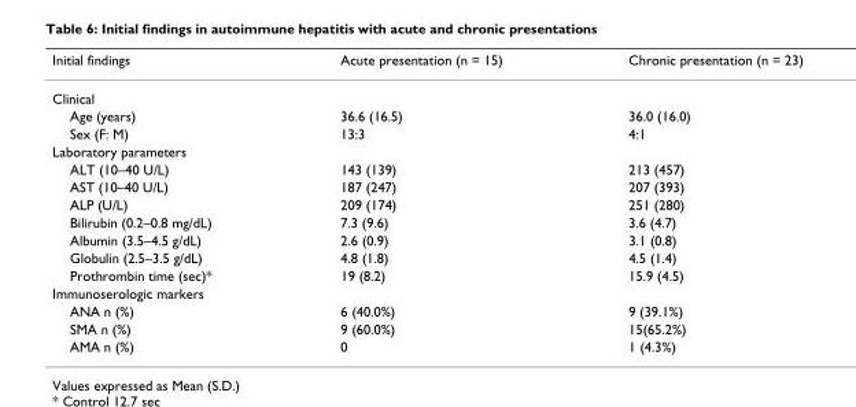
<table><thead><tr><td>Initial findings</td><td>Acute presentation (n = 15)</td><td>Chronic presentation (n = 23)</td></tr></thead><tbody><tr><td colspan="3">Clinical</td></tr><tr><td>Age (years)</td><td>36.6 (16.5)</td><td>36.0 (16.0)</td></tr><tr><td>Sex (F: M)</td><td>13:3</td><td>4:1</td></tr><tr><td colspan="3">Laboratory parameters</td></tr><tr><td>ALT (10–40 U/L)</td><td>143 (139)</td><td>213 (457)</td></tr><tr><td>AST (10–40 U/L)</td><td>187 (247)</td><td>207 (393)</td></tr><tr><td>ALP (U/L)</td><td>209 (174)</td><td>251 (280)</td></tr><tr><td>Bilirubin (0.2–0.8 mg/dL)</td><td>7.3 (9.6)</td><td>3.6 (4.7)</td></tr><tr><td>Albumin (3.5–4.5 g/dL)</td><td>2.6 (0.9)</td><td>3.1 (0.8)</td></tr><tr><td>Globulin (2.5–3.5 g/dL)</td><td>4.8 (1.8)</td><td>4.5 (1.4)</td></tr><tr><td>Prothrombin time (sec)*</td><td>19 (8.2)</td><td>15.9 (4.5)</td></tr><tr><td colspan="3">Immunoserologic markers</td></tr><tr><td>ANA n (%)</td><td>6 (40.0%)</td><td>9 (39.1%)</td></tr><tr><td>SMA n (%)</td><td>9 (60.0%)</td><td>15(65.2%)</td></tr><tr><td>AMA n (%)</td><td>0</td><td>1 (4.3%)</td></tr></tbody></table>